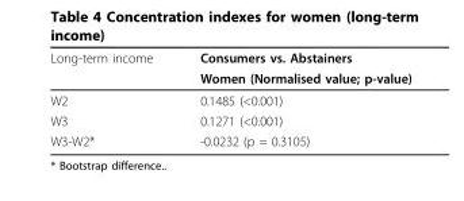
<table><thead><tr><td rowspan="2">Long-term income</td><td rowspan="2">Consumers vs. Abstainers Women (Normalised value; p-value)</td></tr><tr></tr></thead><tbody><tr><td>W2</td><td>0.1485 (&lt;0.001)</td></tr><tr><td>W3</td><td>0.1271 (&lt;0.001)</td></tr><tr><td>W3-W2*</td><td>-0.0232 (p = 0.3105)</td></tr></tbody></table>